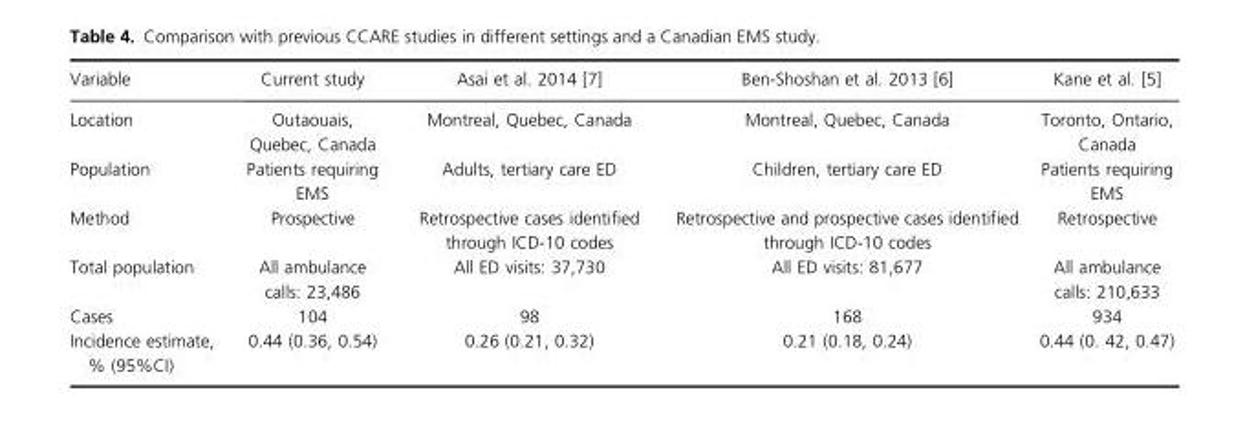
<table><thead><tr><td>Variable</td><td>Current study</td><td>Asai et al. 2014 [7]</td><td>Ben-Shoshan et al. 2013 [6]</td><td>Kane et al. [5]</td></tr></thead><tbody><tr><td>Location</td><td>Outaouais, Quebec, Canada</td><td>Montreal, Quebec, Canada</td><td>Montreal, Quebec, Canada</td><td>Toronto, Ontario, Canada</td></tr><tr><td>Population</td><td>Patients requiring EMS</td><td>Adults, tertiary care ED</td><td>Children, tertiary care ED</td><td>Patients requiring EMS</td></tr><tr><td>Method</td><td>Prospective</td><td>Retrospective cases identified through ICD-10 codes</td><td>Retrospective and prospective cases identified through ICD-10 codes</td><td>Retrospective</td></tr><tr><td>Total population</td><td>All ambulance calls: 23,486</td><td>All ED visits: 37,730</td><td>All ED visits: 81,677</td><td>All ambulance calls: 210,633</td></tr><tr><td>Cases</td><td>104</td><td>98</td><td>168</td><td>934</td></tr><tr><td>Incidence estimate, % (95%CI)</td><td>0.44 (0.36, 0.54)</td><td>0.26 (0.21, 0.32)</td><td>0.21 (0.18, 0.24)</td><td>0.44 (0. 42, 0.47)</td></tr></tbody></table>